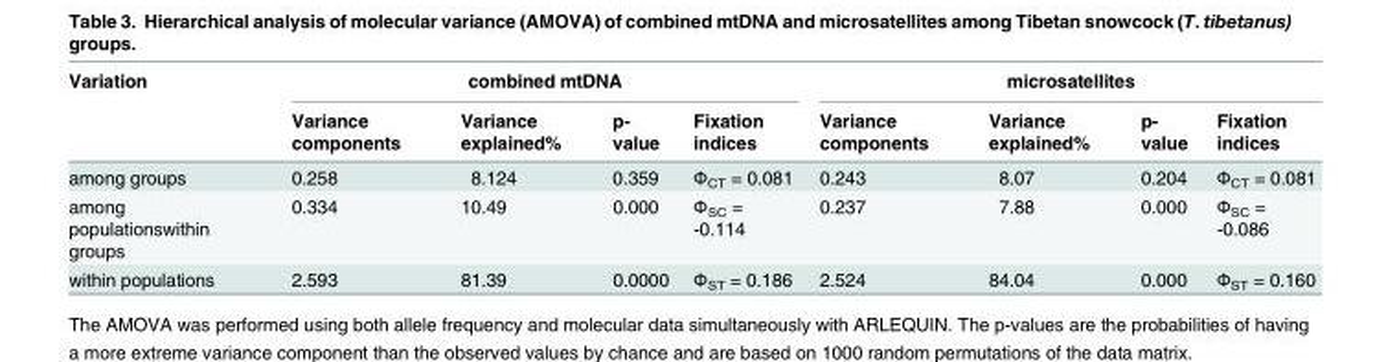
<table><thead><tr><td rowspan="2">Variation</td><td colspan="4">combined mtDNA</td><td colspan="4">microsatellites</td></tr><tr><td>Variance components</td><td>Variance explained%</td><td>p- value</td><td>Fixation indices</td><td>Variance components</td><td>Variance explained%</td><td>p- value</td><td>Fixation indices</td></tr></thead><tbody><tr><td>among groups</td><td>0.258</td><td>8.124</td><td>0.359</td><td>Ф<sub>CT</sub> = 0.081</td><td>0.243</td><td>8.07</td><td>0.204</td><td>Ф<sub>CT</sub> = 0.081</td></tr><tr><td>among populationswithin groups</td><td>0.334</td><td>10.49</td><td>0.000</td><td>Ф<sub>SC</sub> = -0.114</td><td>0.237</td><td>7.88</td><td>0.000</td><td>Ф<sub>SC</sub> = -0.086</td></tr><tr><td>within populations</td><td>2.593</td><td>81.39</td><td>0.0000</td><td>Ф<sub>ST</sub> = 0.186</td><td>2.524</td><td>84.04</td><td>0.000</td><td>Ф<sub>ST</sub> = 0.160</td></tr></tbody></table>